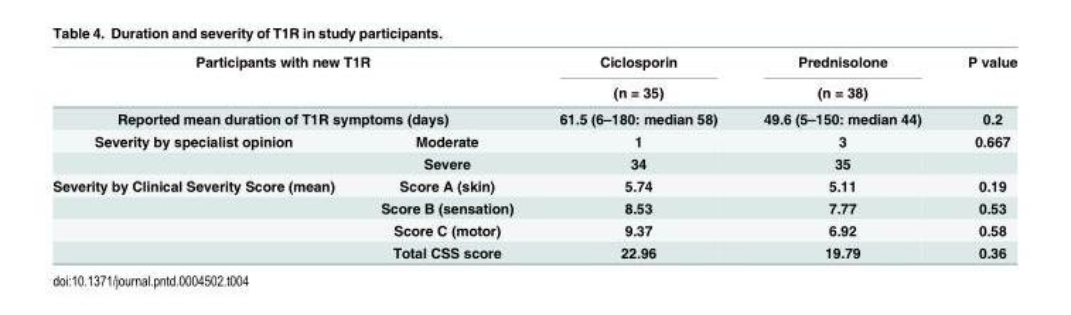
<table><thead><tr><td colspan="2">Participants with new T1R</td><td rowspan="2">Ciclosporin (n = 35)</td><td rowspan="2">Prednisolone (n = 38)</td><td rowspan="2">P value</td></tr><tr><td></td><td></td></tr></thead><tbody><tr><td colspan="2">Reported mean duration of T1R symptoms (days)</td><td>61.5 (6–180: median 58)</td><td>49.6 (5–150: median 44)</td><td>0.2</td></tr><tr><td rowspan="2">Severity by specialist opinion</td><td>Moderate</td><td>1</td><td>3</td><td>0.667</td></tr><tr><td>Severe</td><td>34</td><td>35</td><td></td></tr><tr><td rowspan="4">Severity by Clinical Severity Score (mean)</td><td>Score A (skin)</td><td>5.74</td><td>5.11</td><td>0.19</td></tr><tr><td>Score B (sensation)</td><td>8.53</td><td>7.77</td><td>0.53</td></tr><tr><td>Score C (motor)</td><td>9.37</td><td>6.92</td><td>0.58</td></tr><tr><td>Total CSS score</td><td>22.96</td><td>19.79</td><td>0.36</td></tr></tbody></table>